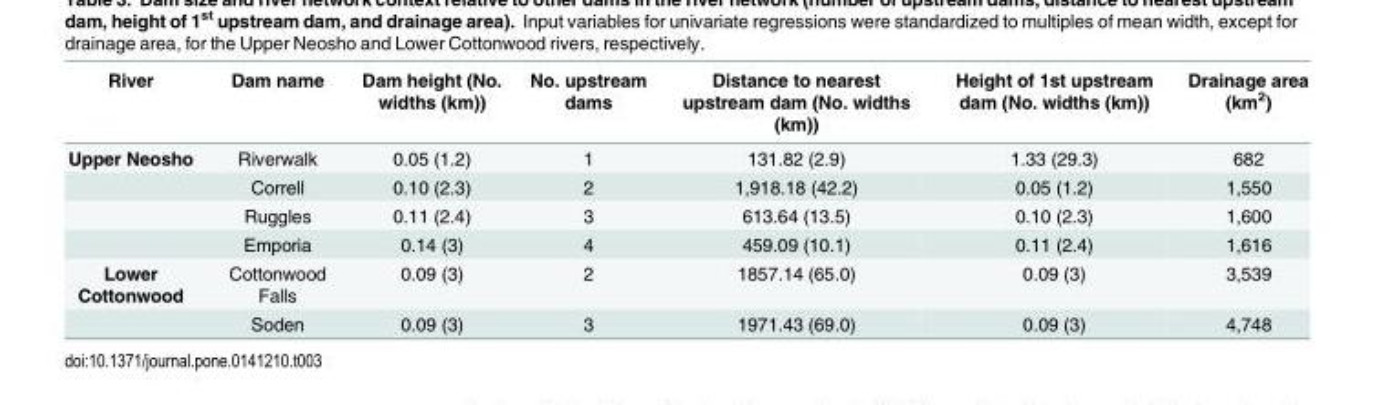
<table><thead><tr><td>River</td><td>Dam name</td><td>Dam height (No. widths (km))</td><td>No. upstream dams</td><td>Distance to nearest upstream dam (No. widths (km))</td><td>Height of 1st upstream dam (No. widths (km))</td><td>Drainage area (km<sup>2</sup>)</td></tr></thead><tbody><tr><td rowspan="4">Upper Neosho</td><td>Riverwalk</td><td>0.05 (1.2)</td><td>1</td><td>131.82 (2.9)</td><td>1.33 (29.3)</td><td>682</td></tr><tr><td>Correll</td><td>0.10 (2.3)</td><td>2</td><td>1,918.18 (42.2)</td><td>0.05 (1.2)</td><td>1,550</td></tr><tr><td>Ruggles</td><td>0.11 (2.4)</td><td>3</td><td>613.64 (13.5)</td><td>0.10 (2.3)</td><td>1,600</td></tr><tr><td>Emporia</td><td>0.14 (3)</td><td>4</td><td>459.09 (10.1)</td><td>0.11 (2.4)</td><td>1,616</td></tr><tr><td rowspan="2">Lower Cottonwood</td><td>Cottonwood Falls</td><td>0.09 (3)</td><td>2</td><td>1857.14 (65.0)</td><td>0.09 (3)</td><td>3,539</td></tr><tr><td>Soden</td><td>0.09 (3)</td><td>3</td><td>1971.43 (69.0)</td><td>0.09 (3)</td><td>4,748</td></tr></tbody></table>